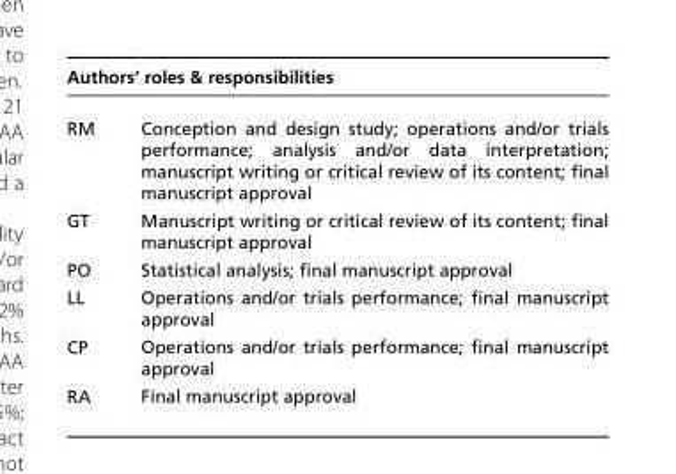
<table><thead><tr><td colspan="2">Authors’ roles &amp; responsibilities</td></tr><tr><td>RM</td><td>Conception and design study; operations and/or trials performance; analysis and/or data interpretation; manuscript writing or critical review of its content; final manuscript approval</td></tr></thead><tbody><tr><td>GT</td><td>Manuscript writing or critical review of its content; final manuscript approval</td></tr><tr><td>PO</td><td>Statistical analysis; final manuscript approval</td></tr><tr><td>LL</td><td>Operations and/or trials performance; final manuscript approval</td></tr><tr><td>CP</td><td>Operations and/or trials performance; final manuscript approval</td></tr><tr><td>RA</td><td>Final manuscript approval</td></tr></tbody></table>